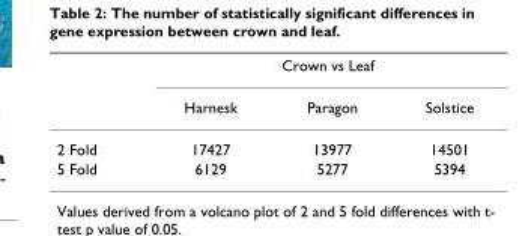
<table><thead><tr><td rowspan="2"></td><td colspan="3">Crown vs Leaf</td></tr><tr><td>Harnesk</td><td>Paragon</td><td>Solstice</td></tr></thead><tbody><tr><td>2 Fold</td><td>17427</td><td>13977</td><td>14501</td></tr><tr><td>5 Fold</td><td>6129</td><td>5277</td><td>5394</td></tr></tbody></table>